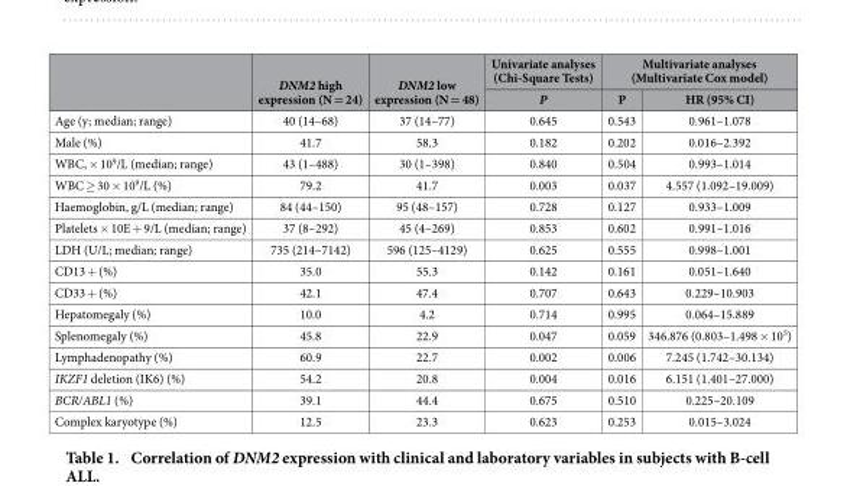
<table><thead><tr><td rowspan="2"></td><td rowspan="2">DNM2 high expression (N = 24)</td><td rowspan="2">DNM2 low expression (N = 48)</td><td rowspan="2">Univariate analyses (Chi-Square Tests) P</td><td colspan="2">Multivariate analyses (Multivariate Cox model)</td></tr><tr><td>P</td><td>HR (95% CI)</td></tr></thead><tbody><tr><td>Age (y; median; range)</td><td>40 (14–68)</td><td>37 (14–77)</td><td>0.645</td><td>0.543</td><td>0.961–1.078</td></tr><tr><td>Male (%)</td><td>41.7</td><td>58.3</td><td>0.182</td><td>0.202</td><td>0.016–2.392</td></tr><tr><td>WBC, × 10<sup>9</sup>/L (median; range)</td><td>43 (1–488)</td><td>30 (1–398)</td><td>0.840</td><td>0.504</td><td>0.993–1.014</td></tr><tr><td>WBC ≥ 30 × 10<sup>9</sup>/L (%)</td><td>79.2</td><td>41.7</td><td>0.003</td><td>0.037</td><td>4.557 (1.092–19.009)</td></tr><tr><td>Haemoglobin, g/L (median; range)</td><td>84 (44–150)</td><td>95 (48–157)</td><td>0.728</td><td>0.127</td><td>0.933–1.009</td></tr><tr><td>Platelets × 10E + 9/L (median; range)</td><td>37 (8–292)</td><td>45 (4–269)</td><td>0.853</td><td>0.602</td><td>0.991–1.016</td></tr><tr><td>LDH (U/L; median; range)</td><td>735 (214–7142)</td><td>596 (125–4129)</td><td>0.625</td><td>0.555</td><td>0.998–1.001</td></tr><tr><td>CD13 + (%)</td><td>35.0</td><td>55.3</td><td>0.142</td><td>0.161</td><td>0.051–1.640</td></tr><tr><td>CD33 + (%)</td><td>42.1</td><td>47.4</td><td>0.707</td><td>0.643</td><td>0.229–10.903</td></tr><tr><td>Hepatomegaly (%)</td><td>10.0</td><td>4.2</td><td>0.714</td><td>0.995</td><td>0.064–15.889</td></tr><tr><td>Splenomegaly (%)</td><td>45.8</td><td>22.9</td><td>0.047</td><td>0.059</td><td>346.876 (0.803–1.498 × 10<sup>5</sup>)</td></tr><tr><td>Lymphadenopathy (%)</td><td>60.9</td><td>22.7</td><td>0.002</td><td>0.006</td><td>7.245 (1.742–30.134)</td></tr><tr><td>IKZF1 deletion (IK6) (%)</td><td>54.2</td><td>20.8</td><td>0.004</td><td>0.016</td><td>6.151 (1.401–27.000)</td></tr><tr><td>BCR/ABL1 (%)</td><td>39.1</td><td>44.4</td><td>0.675</td><td>0.510</td><td>0.225–20.109</td></tr><tr><td>Complex karyotype (%)</td><td>12.5</td><td>23.3</td><td>0.623</td><td>0.253</td><td>0.015–3.024</td></tr></tbody></table>